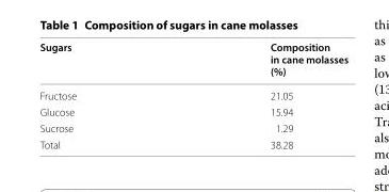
<table><thead><tr><td>Sugars</td><td>Composition in cane molasses (%)</td></tr></thead><tbody><tr><td>Fructose</td><td>21.05</td></tr><tr><td>Glucose</td><td>15.94</td></tr><tr><td>Sucrose</td><td>1.29</td></tr><tr><td>Total</td><td>38.28</td></tr></tbody></table>